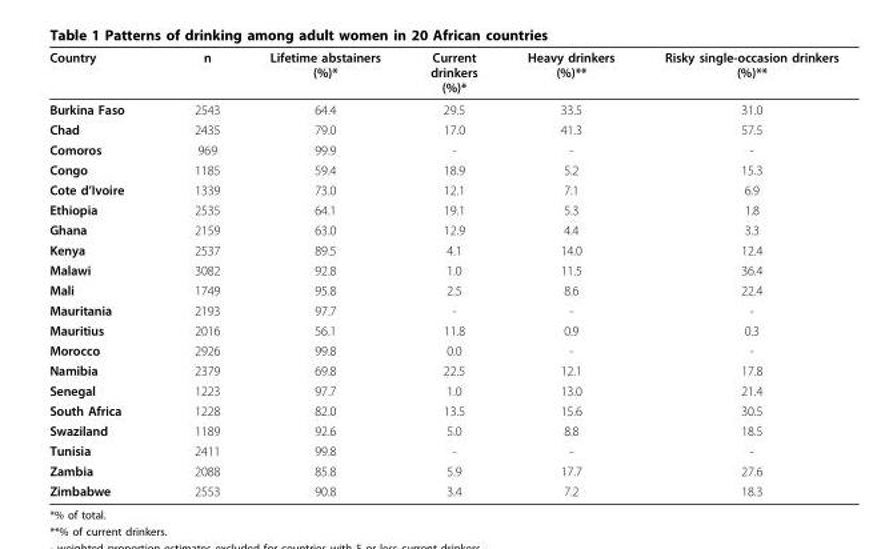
<table><thead><tr><td>Country</td><td>n</td><td>Lifetime abstainers (%)*</td><td>Current drinkers (%)*</td><td>Heavy drinkers (%)**</td><td>Risky single-occasion drinkers (%)**</td></tr></thead><tbody><tr><td>Burkina Faso</td><td>2543</td><td>64.4</td><td>29.5</td><td>33.5</td><td>31.0</td></tr><tr><td>Chad</td><td>2435</td><td>79.0</td><td>17.0</td><td>41.3</td><td>57.5</td></tr><tr><td>Comoros</td><td>969</td><td>99.9</td><td>-</td><td>-</td><td>-</td></tr><tr><td>Congo</td><td>1185</td><td>59.4</td><td>18.9</td><td>5.2</td><td>15.3</td></tr><tr><td>Cote d’Ivoire</td><td>1339</td><td>73.0</td><td>12.1</td><td>7.1</td><td>6.9</td></tr><tr><td>Ethiopia</td><td>2535</td><td>64.1</td><td>19.1</td><td>5.3</td><td>1.8</td></tr><tr><td>Ghana</td><td>2159</td><td>63.0</td><td>12.9</td><td>4.4</td><td>3.3</td></tr><tr><td>Kenya</td><td>2537</td><td>89.5</td><td>4.1</td><td>14.0</td><td>12.4</td></tr><tr><td>Malawi</td><td>3082</td><td>92.8</td><td>1.0</td><td>11.5</td><td>36.4</td></tr><tr><td>Mali</td><td>1749</td><td>95.8</td><td>2.5</td><td>8.6</td><td>22.4</td></tr><tr><td>Mauritania</td><td>2193</td><td>97.7</td><td>-</td><td>-</td><td>-</td></tr><tr><td>Mauritius</td><td>2016</td><td>56.1</td><td>11.8</td><td>0.9</td><td>0.3</td></tr><tr><td>Morocco</td><td>2926</td><td>99.8</td><td>0.0</td><td>-</td><td>-</td></tr><tr><td>Namibia</td><td>2379</td><td>69.8</td><td>22.5</td><td>12.1</td><td>17.8</td></tr><tr><td>Senegal</td><td>1223</td><td>97.7</td><td>1.0</td><td>13.0</td><td>21.4</td></tr><tr><td>South Africa</td><td>1228</td><td>82.0</td><td>13.5</td><td>15.6</td><td>30.5</td></tr><tr><td>Swaziland</td><td>1189</td><td>92.6</td><td>5.0</td><td>8.8</td><td>18.5</td></tr><tr><td>Tunisia</td><td>2411</td><td>99.8</td><td>-</td><td>-</td><td>-</td></tr><tr><td>Zambia</td><td>2088</td><td>85.8</td><td>5.9</td><td>17.7</td><td>27.6</td></tr><tr><td>Zimbabwe</td><td>2553</td><td>90.8</td><td>3.4</td><td>7.2</td><td>18.3</td></tr></tbody></table>